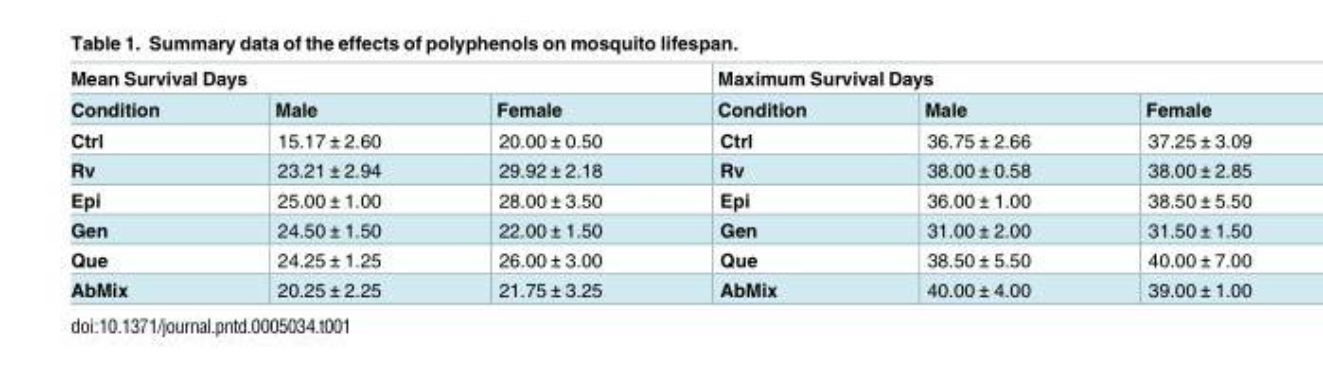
<table><thead><tr><td colspan="3">Mean Survival Days</td><td colspan="3">Maximum Survival Days</td></tr><tr><td>Condition</td><td>Male</td><td>Female</td><td>Condition</td><td>Male</td><td>Female</td></tr></thead><tbody><tr><td>Ctrl</td><td>15.17 ± 2.60</td><td>20.00 ± 0.50</td><td>Ctrl</td><td>36.75 ± 2.66</td><td>37.25 ± 3.09</td></tr><tr><td>Rv</td><td>23.21 ± 2.94</td><td>29.92 ± 2.18</td><td>Rv</td><td>38.00 ± 0.58</td><td>38.00 ± 2.85</td></tr><tr><td>Epi</td><td>25.00 ± 1.00</td><td>28.00 ± 3.50</td><td>Epi</td><td>36.00 ± 1.00</td><td>38.50 ± 5.50</td></tr><tr><td>Gen</td><td>24.50 ± 1.50</td><td>22.00 ± 1.50</td><td>Gen</td><td>31.00 ± 2.00</td><td>31.50 ± 1.50</td></tr><tr><td>Que</td><td>24.25 ± 1.25</td><td>26.00 ± 3.00</td><td>Que</td><td>38.50 ± 5.50</td><td>40.00 ± 7.00</td></tr><tr><td>AbMix</td><td>20.25 ± 2.25</td><td>21.75 ± 3.25</td><td>AbMix</td><td>40.00 ± 4.00</td><td>39.00 ± 1.00</td></tr></tbody></table>